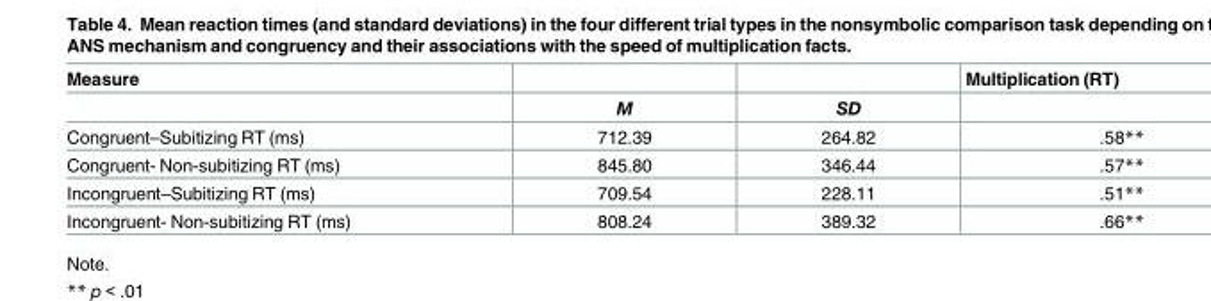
<table><thead><tr><td rowspan="2">Measure</td><td rowspan="2">M</td><td rowspan="2">SD</td><td rowspan="2">Multiplication (RT)</td></tr><tr></tr></thead><tbody><tr><td>Congruent–Subitizing RT (ms)</td><td>712.39</td><td>264.82</td><td>.58**</td></tr><tr><td>Congruent- Non-subitizing RT (ms)</td><td>845.80</td><td>346.44</td><td>.57**</td></tr><tr><td>Incongruent–Subitizing RT (ms)</td><td>709.54</td><td>228.11</td><td>.51**</td></tr><tr><td>Incongruent- Non-subitizing RT (ms)</td><td>808.24</td><td>389.32</td><td>.66**</td></tr></tbody></table>